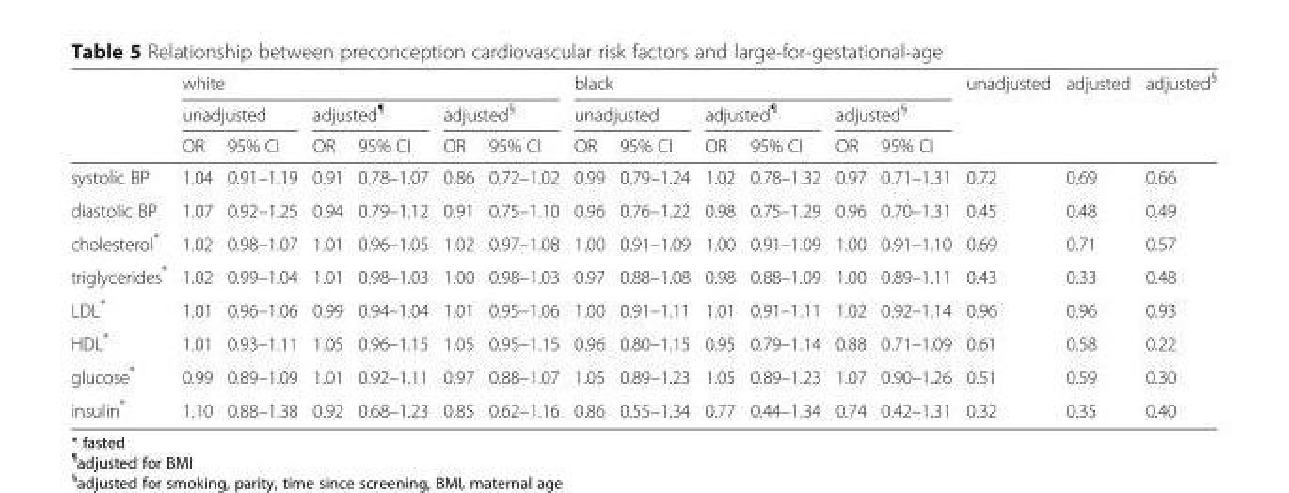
<table><thead><tr><td rowspan="3"></td><td colspan="6">white</td><td colspan="6">black</td><td rowspan="3">unadjusted</td><td rowspan="3">adjusted</td><td rowspan="3">adjusted<sup>§</sup></td></tr><tr><td colspan="2">unadjusted</td><td colspan="2">adjusted<sup>¶</sup></td><td colspan="2">adjusted<sup>§</sup></td><td colspan="2">unadjusted</td><td colspan="2">adjusted<sup>¶</sup></td><td colspan="2">adjusted<sup>§</sup></td></tr><tr><td>OR</td><td>95% CI</td><td>OR</td><td>95% CI</td><td>OR</td><td>95% CI</td><td>OR</td><td>95% CI</td><td>OR</td><td>95% CI</td><td>OR</td><td>95% CI</td></tr></thead><tbody><tr><td>systolic BP</td><td>1.04</td><td>0.91–1.19</td><td>0.91</td><td>0.78–1.07</td><td>0.86</td><td>0.72–1.02</td><td>0.99</td><td>0.79–1.24</td><td>1.02</td><td>0.78–1.32</td><td>0.97</td><td>0.71–1.31</td><td>0.72</td><td>0.69</td><td>0.66</td></tr><tr><td>diastolic BP</td><td>1.07</td><td>0.92–1.25</td><td>0.94</td><td>0.79–1.12</td><td>0.91</td><td>0.75–1.10</td><td>0.96</td><td>0.76–1.22</td><td>0.98</td><td>0.75–1.29</td><td>0.96</td><td>0.70–1.31</td><td>0.45</td><td>0.48</td><td>0.49</td></tr><tr><td>cholesterol*</td><td>1.02</td><td>0.98–1.07</td><td>1.01</td><td>0.96–1.05</td><td>1.02</td><td>0.97–1.08</td><td>1.00</td><td>0.91–1.09</td><td>1.00</td><td>0.91–1.09</td><td>1.00</td><td>0.91–1.10</td><td>0.69</td><td>0.71</td><td>0.57</td></tr><tr><td>triglycerides*</td><td>1.02</td><td>0.99–1.04</td><td>1.01</td><td>0.98–1.03</td><td>1.00</td><td>0.98–1.03</td><td>0.97</td><td>0.88–1.08</td><td>0.98</td><td>0.88–1.09</td><td>1.00</td><td>0.89–1.11</td><td>0.43</td><td>0.33</td><td>0.48</td></tr><tr><td>LDL*</td><td>1.01</td><td>0.96–1.06</td><td>0.99</td><td>0.94–1.04</td><td>1.01</td><td>0.95–1.06</td><td>1.00</td><td>0.91–1.11</td><td>1.01</td><td>0.91–1.11</td><td>1.02</td><td>0.92–1.14</td><td>0.96</td><td>0.96</td><td>0.93</td></tr><tr><td>HDL*</td><td>1.01</td><td>0.93–1.11</td><td>1.05</td><td>0.96–1.15</td><td>1.05</td><td>0.95–1.15</td><td>0.96</td><td>0.80–1.15</td><td>0.95</td><td>0.79–1.14</td><td>0.88</td><td>0.71–1.09</td><td>0.61</td><td>0.58</td><td>0.22</td></tr><tr><td>glucose*</td><td>0.99</td><td>0.89–1.09</td><td>1.01</td><td>0.92–1.11</td><td>0.97</td><td>0.88–1.07</td><td>1.05</td><td>0.89–1.23</td><td>1.05</td><td>0.89–1.23</td><td>1.07</td><td>0.90–1.26</td><td>0.51</td><td>0.59</td><td>0.30</td></tr><tr><td>insulin*</td><td>1.10</td><td>0.88–1.38</td><td>0.92</td><td>0.68–1.23</td><td>0.85</td><td>0.62–1.16</td><td>0.86</td><td>0.55–1.34</td><td>0.77</td><td>0.44–1.34</td><td>0.74</td><td>0.42–1.31</td><td>0.32</td><td>0.35</td><td>0.40</td></tr></tbody></table>